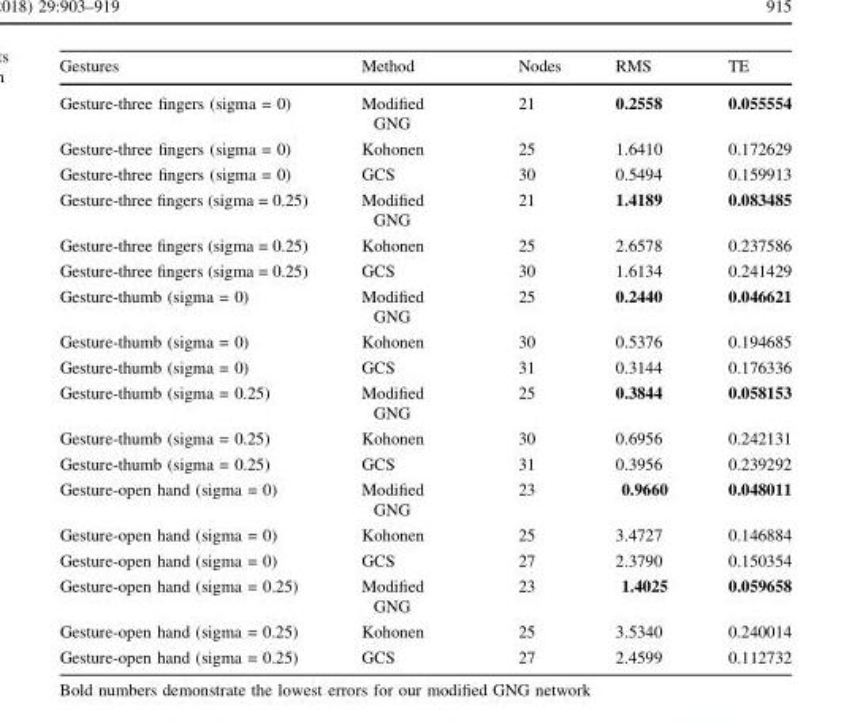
<table><thead><tr><td>Gestures</td><td>Method</td><td>Nodes</td><td>RMS</td><td>TE</td></tr></thead><tbody><tr><td>Gesture-three fingers (sigma = 0)</td><td>Modified GNG</td><td>21</td><td>0.2558</td><td>0.055554</td></tr><tr><td>Gesture-three fingers (sigma = 0)</td><td>Kohonen</td><td>25</td><td>1.6410</td><td>0.172629</td></tr><tr><td>Gesture-three fingers (sigma = 0)</td><td>GCS</td><td>30</td><td>0.5494</td><td>0.159913</td></tr><tr><td>Gesture-three fingers (sigma = 0.25)</td><td>Modified GNG</td><td>21</td><td>1.4189</td><td>0.083485</td></tr><tr><td>Gesture-three fingers (sigma = 0.25)</td><td>Kohonen</td><td>25</td><td>2.6578</td><td>0.237586</td></tr><tr><td>Gesture-three fingers (sigma = 0.25)</td><td>GCS</td><td>30</td><td>1.6134</td><td>0.241429</td></tr><tr><td>Gesture-thumb (sigma = 0)</td><td>Modified GNG</td><td>25</td><td>0.2440</td><td>0.046621</td></tr><tr><td>Gesture-thumb (sigma = 0)</td><td>Kohonen</td><td>30</td><td>0.5376</td><td>0.194685</td></tr><tr><td>Gesture-thumb (sigma = 0)</td><td>GCS</td><td>31</td><td>0.3144</td><td>0.176336</td></tr><tr><td>Gesture-thumb (sigma = 0.25)</td><td>Modified GNG</td><td>25</td><td>0.3844</td><td>0.058153</td></tr><tr><td>Gesture-thumb (sigma = 0.25)</td><td>Kohonen</td><td>30</td><td>0.6956</td><td>0.242131</td></tr><tr><td>Gesture-thumb (sigma = 0.25)</td><td>GCS</td><td>31</td><td>0.3956</td><td>0.239292</td></tr><tr><td>Gesture-open hand (sigma = 0)</td><td>Modified GNG</td><td>23</td><td>0.9660</td><td>0.048011</td></tr><tr><td>Gesture-open hand (sigma = 0)</td><td>Kohonen</td><td>25</td><td>3.4727</td><td>0.146884</td></tr><tr><td>Gesture-open hand (sigma = 0)</td><td>GCS</td><td>27</td><td>2.3790</td><td>0.150354</td></tr><tr><td>Gesture-open hand (sigma = 0.25)</td><td>Modified GNG</td><td>23</td><td>1.4025</td><td>0.059658</td></tr><tr><td>Gesture-open hand (sigma = 0.25)</td><td>Kohonen</td><td>25</td><td>3.5340</td><td>0.240014</td></tr><tr><td>Gesture-open hand (sigma = 0.25)</td><td>GCS</td><td>27</td><td>2.4599</td><td>0.112732</td></tr></tbody></table>